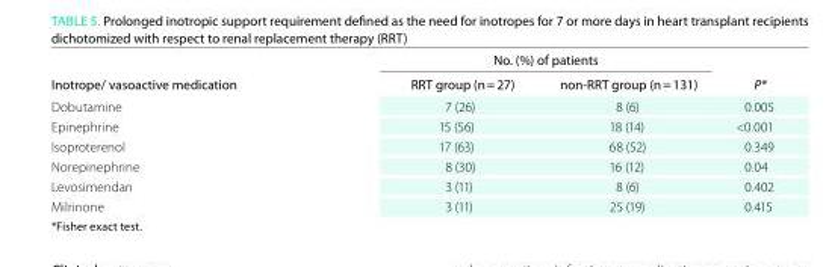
<table><thead><tr><td rowspan="2">inotrope/ vasoactive medication</td><td colspan="2">No. (%) of patients</td><td rowspan="2">P*</td></tr><tr><td>rrT group (n = 27)</td><td>non-rrT group (n = 131)</td></tr></thead><tbody><tr><td>Dobutamine</td><td>7 (26)</td><td>8 (6)</td><td>0.005</td></tr><tr><td>Epinephrine</td><td>15 (56)</td><td>18 (14)</td><td>&lt;0.001</td></tr><tr><td>Isoproterenol</td><td>17 (63)</td><td>68 (52)</td><td>0.349</td></tr><tr><td>Norepinephrine</td><td>8 (30)</td><td>16 (12)</td><td>0.04</td></tr><tr><td>Levosimendan</td><td>3 (11)</td><td>8 (6)</td><td>0.402</td></tr><tr><td>Milrinone</td><td>3 (11)</td><td>25 (19)</td><td>0.415</td></tr></tbody></table>